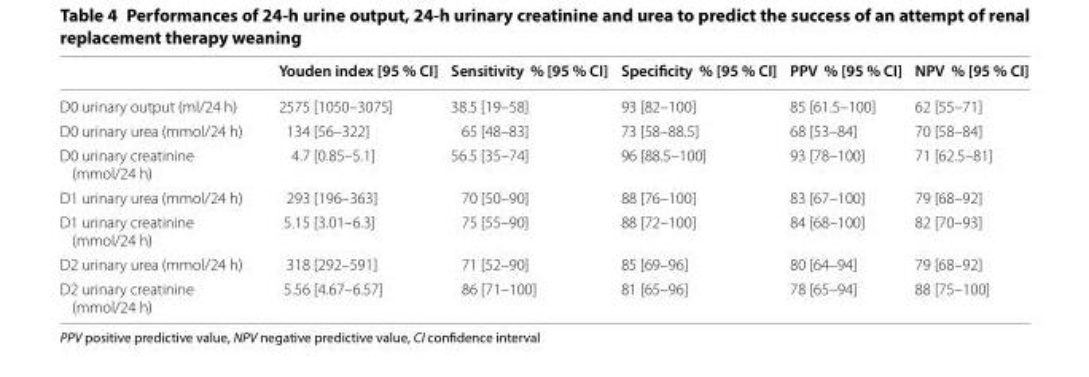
<table><thead><tr><td></td><td>Youden index [95 % CI]</td><td>Sensitivity % [95 % CI]</td><td>Specificity % [95 % CI]</td><td>PPV % [95 % CI]</td><td>NPV % [95 % CI]</td></tr></thead><tbody><tr><td>D0 urinary output (ml/24 h)</td><td>2575 [1050–3075]</td><td>38.5 [19–58]</td><td>93 [82–100]</td><td>85 [61.5–100]</td><td>62 [55–71]</td></tr><tr><td>D0 urinary urea (mmol/24 h)</td><td>134 [56–322]</td><td>65 [48–83]</td><td>73 [58–88.5]</td><td>68 [53–84]</td><td>70 [58–84]</td></tr><tr><td>D0 urinary creatinine (mmol/24 h)</td><td>4.7 [0.85–5.1]</td><td>56.5 [35–74]</td><td>96 [88.5–100]</td><td>93 [78–100]</td><td>71 [62.5–81]</td></tr><tr><td>D1 urinary urea (mmol/24 h)</td><td>293 [196–363]</td><td>70 [50–90]</td><td>88 [76–100]</td><td>83 [67–100]</td><td>79 [68–92]</td></tr><tr><td>D1 urinary creatinine (mmol/24 h)</td><td>5.15 [3.01–6.3]</td><td>75 [55–90]</td><td>88 [72–100]</td><td>84 [68–100]</td><td>82 [70–93]</td></tr><tr><td>D2 urinary urea (mmol/24 h)</td><td>318 [292–591]</td><td>71 [52–90]</td><td>85 [69–96]</td><td>80 [64–94]</td><td>79 [68–92]</td></tr><tr><td>D2 urinary creatinine (mmol/24 h)</td><td>5.56 [4.67–6.57]</td><td>86 [71–100]</td><td>81 [65–96]</td><td>78 [65–94]</td><td>88 [75–100]</td></tr></tbody></table>